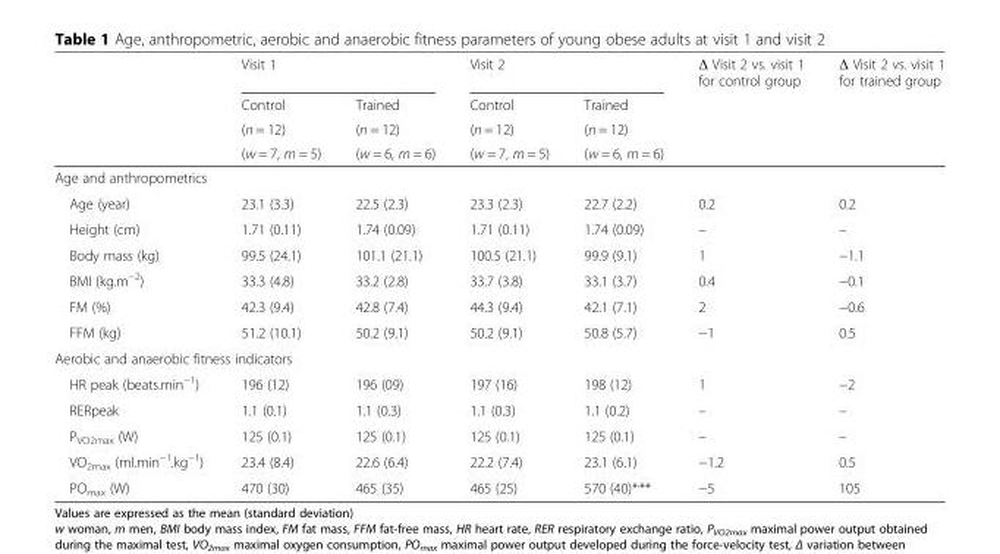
<table><thead><tr><td rowspan="4"></td><td colspan="2">Visit 1</td><td colspan="2">Visit 2</td><td rowspan="4">Δ Visit 2 vs. visit 1 for control group</td><td rowspan="4">Δ Visit 2 vs. visit 1 for trained group</td></tr><tr><td rowspan="3">Control (n = 12) (w = 7, m = 5)</td><td rowspan="3">Trained (n = 12) (w = 6, m = 6)</td><td rowspan="3">Control (n = 12) (w = 7, m = 5)</td><td rowspan="3">Trained (n = 12) (w = 6, m = 6)</td></tr><tr></tr><tr></tr></thead><tbody><tr><td colspan="7">Age and anthropometrics</td></tr><tr><td>Age (year)</td><td>23.1 (3.3)</td><td>22.5 (2.3)</td><td>23.3 (2.3)</td><td>22.7 (2.2)</td><td>0.2</td><td>0.2</td></tr><tr><td>Height (cm)</td><td>1.71 (0.11)</td><td>1.74 (0.09)</td><td>1.71 (0.11)</td><td>1.74 (0.09)</td><td>–</td><td>–</td></tr><tr><td>Body mass (kg)</td><td>99.5 (24.1)</td><td>101.1 (21.1)</td><td>100.5 (21.1)</td><td>99.9 (9.1)</td><td>1</td><td>−1.1</td></tr><tr><td>BMI (kg.m<sup>−2</sup>)</td><td>33.3 (4.8)</td><td>33.2 (2.8)</td><td>33.7 (3.8)</td><td>33.1 (3.7)</td><td>0.4</td><td>−0.1</td></tr><tr><td>FM (%)</td><td>42.3 (9.4)</td><td>42.8 (7.4)</td><td>44.3 (9.4)</td><td>42.1 (7.1)</td><td>2</td><td>−0.6</td></tr><tr><td>FFM (kg)</td><td>51.2 (10.1)</td><td>50.2 (9.1)</td><td>50.2 (9.1)</td><td>50.8 (5.7)</td><td>−1</td><td>0.5</td></tr><tr><td colspan="7">Aerobic and anaerobic fitness indicators</td></tr><tr><td>HR peak (beats.min<sup>−1</sup>)</td><td>196 (12)</td><td>196 (09)</td><td>197 (16)</td><td>198 (12)</td><td>1</td><td>−2</td></tr><tr><td>RERpeak</td><td>1.1 (0.1)</td><td>1.1 (0.3)</td><td>1.1 (0.3)</td><td>1.1 (0.2)</td><td>–</td><td>–</td></tr><tr><td>P<sub>VO2max</sub> (W)</td><td>125 (0.1)</td><td>125 (0.1)</td><td>125 (0.1)</td><td>125 (0.1)</td><td>–</td><td>–</td></tr><tr><td>VO<sub>2max</sub> (ml.min<sup>−1</sup>.kg<sup>−1</sup>)</td><td>23.4 (8.4)</td><td>22.6 (6.4)</td><td>22.2 (7.4)</td><td>23.1 (6.1)</td><td>−1.2</td><td>0.5</td></tr><tr><td>PO<sub>max</sub> (W)</td><td>470 (30)</td><td>465 (35)</td><td>465 (25)</td><td>570 (40)*<sup>,</sup>**</td><td>−5</td><td>105</td></tr></tbody></table>